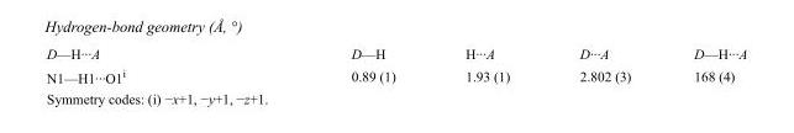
<table><tbody><tr><td>D—H···A</td><td>D—H</td><td>H···A</td><td>D···A</td><td>D—H···A</td></tr><tr><td>N1—H1···O1<sup>i</sup></td><td>0.89 (1)</td><td>1.93 (1)</td><td>2.802 (3)</td><td>168 (4)</td></tr></tbody></table>